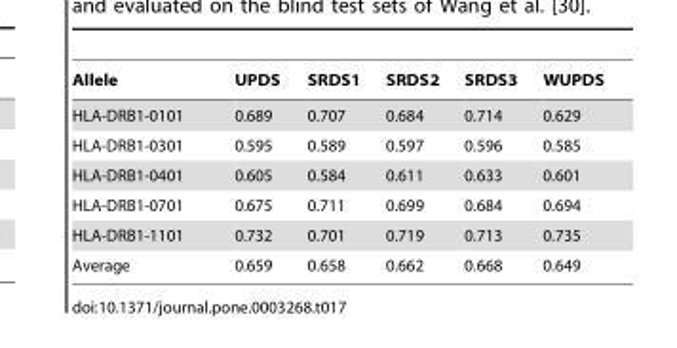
<table><thead><tr><td>Allele</td><td>UPDS</td><td>SRDS1</td><td>SRDS2</td><td>SRDS3</td><td>WUPDS</td></tr></thead><tbody><tr><td>HLA-DRB1-0101</td><td>0.689</td><td>0.707</td><td>0.684</td><td>0.714</td><td>0.629</td></tr><tr><td>HLA-DRB1-0301</td><td>0.595</td><td>0.589</td><td>0.597</td><td>0.596</td><td>0.585</td></tr><tr><td>HLA-DRB1-0401</td><td>0.605</td><td>0.584</td><td>0.611</td><td>0.633</td><td>0.601</td></tr><tr><td>HLA-DRB1-0701</td><td>0.675</td><td>0.711</td><td>0.699</td><td>0.684</td><td>0.694</td></tr><tr><td>HLA-DRB1-1101</td><td>0.732</td><td>0.701</td><td>0.719</td><td>0.713</td><td>0.735</td></tr><tr><td>Average</td><td>0.659</td><td>0.658</td><td>0.662</td><td>0.668</td><td>0.649</td></tr></tbody></table>